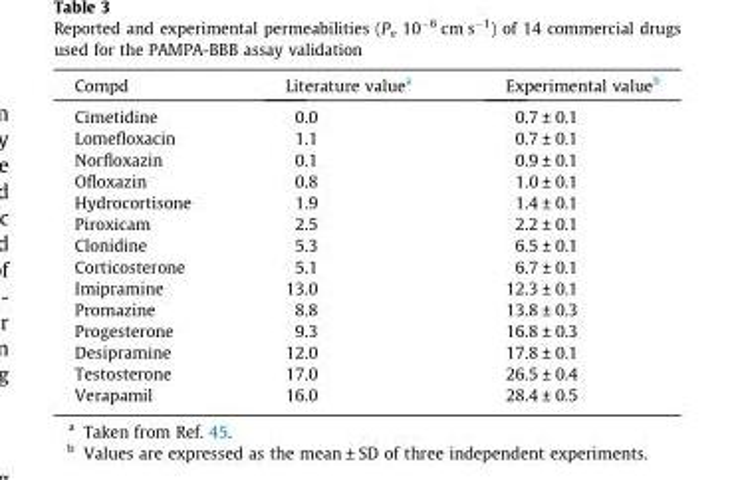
<table><thead><tr><td>Compd</td><td>Literature value<sup>a</sup></td><td>Experimental value<sup>b</sup></td></tr></thead><tbody><tr><td>Cimetidine</td><td>0.0</td><td>0.7 ± 0.1</td></tr><tr><td>Lomefloxacin</td><td>1.1</td><td>0.7 ± 0.1</td></tr><tr><td>Norfloxazin</td><td>0.1</td><td>0.9 ± 0.1</td></tr><tr><td>Ofloxazin</td><td>0.8</td><td>1.0 ± 0.1</td></tr><tr><td>Hydrocortisone</td><td>1.9</td><td>1.4 ± 0.1</td></tr><tr><td>Piroxicam</td><td>2.5</td><td>2.2 ± 0.1</td></tr><tr><td>Clonidine</td><td>5.3</td><td>6.5 ± 0.1</td></tr><tr><td>Corticosterone</td><td>5.1</td><td>6.7 ± 0.1</td></tr><tr><td>Imipramine</td><td>13.0</td><td>12.3 ± 0.1</td></tr><tr><td>Promazine</td><td>8.8</td><td>13.8 ± 0.3</td></tr><tr><td>Progesterone</td><td>9.3</td><td>16.8 ± 0.3</td></tr><tr><td>Desipramine</td><td>12.0</td><td>17.8 ± 0.1</td></tr><tr><td>Testosterone</td><td>17.0</td><td>26.5 ± 0.4</td></tr><tr><td>Verapamil</td><td>16.0</td><td>28.4 ± 0.5</td></tr></tbody></table>